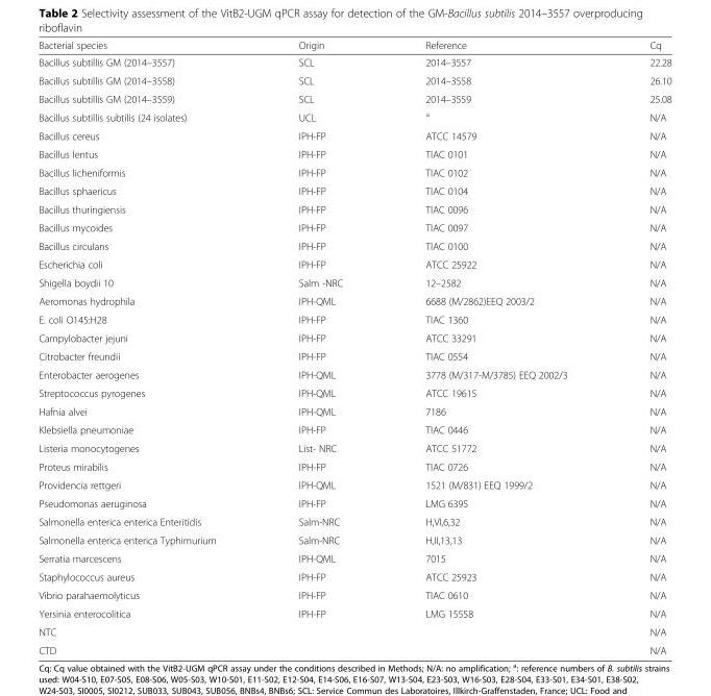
<table><thead><tr><td>Bacterial species</td><td>Origin</td><td>Reference</td><td>Cq</td></tr></thead><tbody><tr><td>Bacillus subtillis GM (2014–3557)</td><td>SCL</td><td>2014–3557</td><td>22.28</td></tr><tr><td>Bacillus subtillis GM (2014–3558)</td><td>SCL</td><td>2014–3558</td><td>26.10</td></tr><tr><td>Bacillus subtillis GM (2014–3559)</td><td>SCL</td><td>2014–3559</td><td>25.08</td></tr><tr><td>Bacillus subtillis subtilis (24 isolates)</td><td>UCL</td><td><sup>a</sup></td><td>N/A</td></tr><tr><td>Bacillus cereus</td><td>IPH-FP</td><td>ATCC 14579</td><td>N/A</td></tr><tr><td>Bacillus lentus</td><td>IPH-FP</td><td>TIAC 0101</td><td>N/A</td></tr><tr><td>Bacillus licheniformis</td><td>IPH-FP</td><td>TIAC 0102</td><td>N/A</td></tr><tr><td>Bacillus sphaericus</td><td>IPH-FP</td><td>TIAC 0104</td><td>N/A</td></tr><tr><td>Bacillus thuringiensis</td><td>IPH-FP</td><td>TIAC 0096</td><td>N/A</td></tr><tr><td>Bacillus mycoides</td><td>IPH-FP</td><td>TIAC 0097</td><td>N/A</td></tr><tr><td>Bacillus circulans</td><td>IPH-FP</td><td>TIAC 0100</td><td>N/A</td></tr><tr><td>Escherichia coli</td><td>IPH-FP</td><td>ATCC 25922</td><td>N/A</td></tr><tr><td>Shigella boydii 10</td><td>Salm -NRC</td><td>12–2582</td><td>N/A</td></tr><tr><td>Aeromonas hydrophila</td><td>IPH-QML</td><td>6688 (M/2862)EEQ 2003/2</td><td>N/A</td></tr><tr><td>E. coli O145:H28</td><td>IPH-FP</td><td>TIAC 1360</td><td>N/A</td></tr><tr><td>Campylobacter jejuni</td><td>IPH-FP</td><td>ATCC 33291</td><td>N/A</td></tr><tr><td>Citrobacter freundii</td><td>IPH-FP</td><td>TIAC 0554</td><td>N/A</td></tr><tr><td>Enterobacter aerogenes</td><td>IPH-QML</td><td>3778 (M/317-M/3785) EEQ 2002/3</td><td>N/A</td></tr><tr><td>Streptococcus pyrogenes</td><td>IPH-QML</td><td>ATCC 19615</td><td>N/A</td></tr><tr><td>Hafnia alvei</td><td>IPH-QML</td><td>7186</td><td>N/A</td></tr><tr><td>Klebsiella pneumoniae</td><td>IPH-FP</td><td>TIAC 0446</td><td>N/A</td></tr><tr><td>Listeria monocytogenes</td><td>List- NRC</td><td>ATCC 51772</td><td>N/A</td></tr><tr><td>Proteus mirabilis</td><td>IPH-FP</td><td>TIAC 0726</td><td>N/A</td></tr><tr><td>Providencia rettgeri</td><td>IPH-QML</td><td>1521 (M/831) EEQ 1999/2</td><td>N/A</td></tr><tr><td>Pseudomonas aeruginosa</td><td>IPH-FP</td><td>LMG 6395</td><td>N/A</td></tr><tr><td>Salmonella enterica enterica Enteritidis</td><td>Salm-NRC</td><td>H,VI,6,32</td><td>N/A</td></tr><tr><td>Salmonella enterica enterica Typhimurium</td><td>Salm-NRC</td><td>H,II,13,13</td><td>N/A</td></tr><tr><td>Serratia marcescens</td><td>IPH-QML</td><td>7015</td><td>N/A</td></tr><tr><td>Staphylococcus aureus</td><td>IPH-FP</td><td>ATCC 25923</td><td>N/A</td></tr><tr><td>Vibrio parahaemolyticus</td><td>IPH-FP</td><td>TIAC 0610</td><td>N/A</td></tr><tr><td>Yersinia enterocolitica</td><td>IPH-FP</td><td>LMG 15558</td><td>N/A</td></tr><tr><td>NTC</td><td></td><td></td><td>N/A</td></tr><tr><td>CTD</td><td></td><td></td><td>N/A</td></tr></tbody></table>